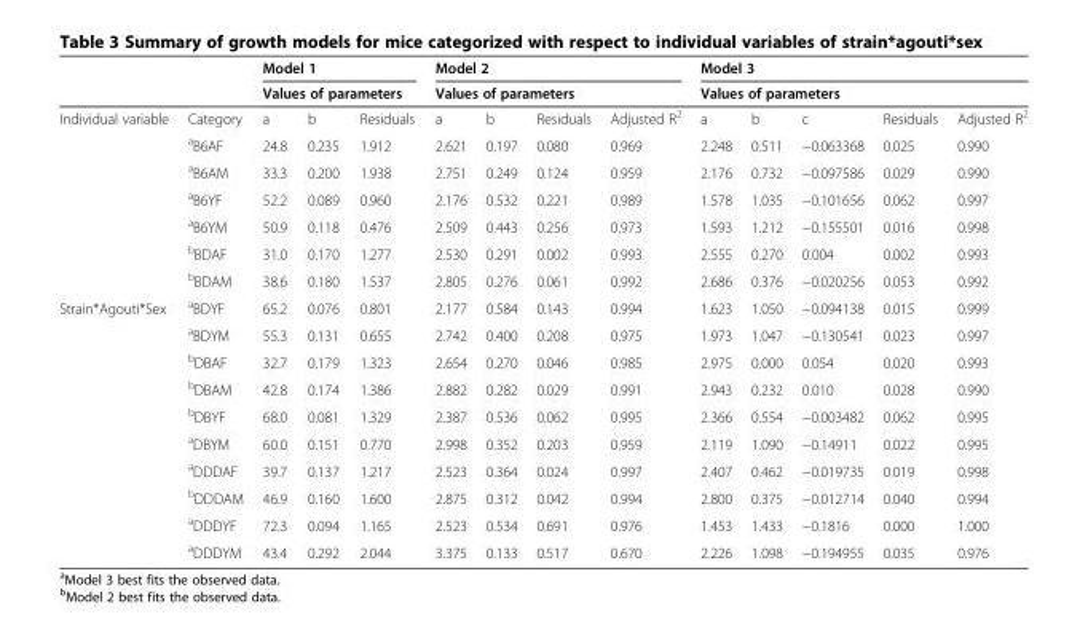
<table><thead><tr><td rowspan="3">Individual variable</td><td rowspan="3">Category</td><td rowspan="2" colspan="3">Model 1 Values of parameters</td><td rowspan="2" colspan="4">Model 2 Values of parameters</td><td rowspan="2" colspan="5">Model 3 Values of parameters</td></tr><tr></tr><tr><td>a</td><td>b</td><td>Residuals</td><td>a</td><td>b</td><td>Residuals</td><td>Adjusted R<sup>2</sup></td><td>a</td><td>b</td><td>c</td><td>Residuals</td><td>Adjusted R<sup>2</sup></td></tr></thead><tbody><tr><td></td><td><sup>a</sup>B6AF</td><td>24.8</td><td>0.235</td><td>1.912</td><td>2.621</td><td>0.197</td><td>0.080</td><td>0.969</td><td>2.248</td><td>0.511</td><td>−0.063368</td><td>0.025</td><td>0.990</td></tr><tr><td></td><td><sup>a</sup>B6AM</td><td>33.3</td><td>0.200</td><td>1.938</td><td>2.751</td><td>0.249</td><td>0.124</td><td>0.959</td><td>2.176</td><td>0.732</td><td>−0.097586</td><td>0.029</td><td>0.990</td></tr><tr><td></td><td><sup>a</sup>B6YF</td><td>52.2</td><td>0.089</td><td>0.960</td><td>2.176</td><td>0.532</td><td>0.221</td><td>0.989</td><td>1.578</td><td>1.035</td><td>−0.101656</td><td>0.062</td><td>0.997</td></tr><tr><td></td><td><sup>a</sup>B6YM</td><td>50.9</td><td>0.118</td><td>0.476</td><td>2.509</td><td>0.443</td><td>0.256</td><td>0.973</td><td>1.593</td><td>1.212</td><td>−0.155501</td><td>0.016</td><td>0.998</td></tr><tr><td></td><td><sup>b</sup>BDAF</td><td>31.0</td><td>0.170</td><td>1.277</td><td>2.530</td><td>0.291</td><td>0.002</td><td>0.993</td><td>2.555</td><td>0.270</td><td>0.004</td><td>0.002</td><td>0.993</td></tr><tr><td></td><td><sup>b</sup>BDAM</td><td>38.6</td><td>0.180</td><td>1.537</td><td>2.805</td><td>0.276</td><td>0.061</td><td>0.992</td><td>2.686</td><td>0.376</td><td>−0.020256</td><td>0.053</td><td>0.992</td></tr><tr><td rowspan="10">Strain*Agouti*Sex</td><td><sup>a</sup>BDYF</td><td>65.2</td><td>0.076</td><td>0.801</td><td>2.177</td><td>0.584</td><td>0.143</td><td>0.994</td><td>1.623</td><td>1.050</td><td>−0.094138</td><td>0.015</td><td>0.999</td></tr><tr><td><sup>a</sup>BDYM</td><td>55.3</td><td>0.131</td><td>0.655</td><td>2.742</td><td>0.400</td><td>0.208</td><td>0.975</td><td>1.973</td><td>1.047</td><td>−0.130541</td><td>0.023</td><td>0.997</td></tr><tr><td><sup>b</sup>DBAF</td><td>32.7</td><td>0.179</td><td>1.323</td><td>2.654</td><td>0.270</td><td>0.046</td><td>0.985</td><td>2.975</td><td>0.000</td><td>0.054</td><td>0.020</td><td>0.993</td></tr><tr><td><sup>b</sup>DBAM</td><td>42.8</td><td>0.174</td><td>1.386</td><td>2.882</td><td>0.282</td><td>0.029</td><td>0.991</td><td>2.943</td><td>0.232</td><td>0.010</td><td>0.028</td><td>0.990</td></tr><tr><td><sup>b</sup>DBYF</td><td>68.0</td><td>0.081</td><td>1.329</td><td>2.387</td><td>0.536</td><td>0.062</td><td>0.995</td><td>2.366</td><td>0.554</td><td>−0.003482</td><td>0.062</td><td>0.995</td></tr><tr><td><sup>a</sup>DBYM</td><td>60.0</td><td>0.151</td><td>0.770</td><td>2.998</td><td>0.352</td><td>0.203</td><td>0.959</td><td>2.119</td><td>1.090</td><td>−0.14911</td><td>0.022</td><td>0.995</td></tr><tr><td><sup>a</sup>DDDAF</td><td>39.7</td><td>0.137</td><td>1.217</td><td>2.523</td><td>0.364</td><td>0.024</td><td>0.997</td><td>2.407</td><td>0.462</td><td>−0.019735</td><td>0.019</td><td>0.998</td></tr><tr><td><sup>b</sup>DDDAM</td><td>46.9</td><td>0.160</td><td>1.600</td><td>2.875</td><td>0.312</td><td>0.042</td><td>0.994</td><td>2.800</td><td>0.375</td><td>−0.012714</td><td>0.040</td><td>0.994</td></tr><tr><td><sup>a</sup>DDDYF</td><td>72.3</td><td>0.094</td><td>1.165</td><td>2.523</td><td>0.534</td><td>0.691</td><td>0.976</td><td>1.453</td><td>1.433</td><td>−0.1816</td><td>0.000</td><td>1.000</td></tr><tr><td><sup>a</sup>DDDYM</td><td>43.4</td><td>0.292</td><td>2.044</td><td>3.375</td><td>0.133</td><td>0.517</td><td>0.670</td><td>2.226</td><td>1.098</td><td>−0.194955</td><td>0.035</td><td>0.976</td></tr></tbody></table>